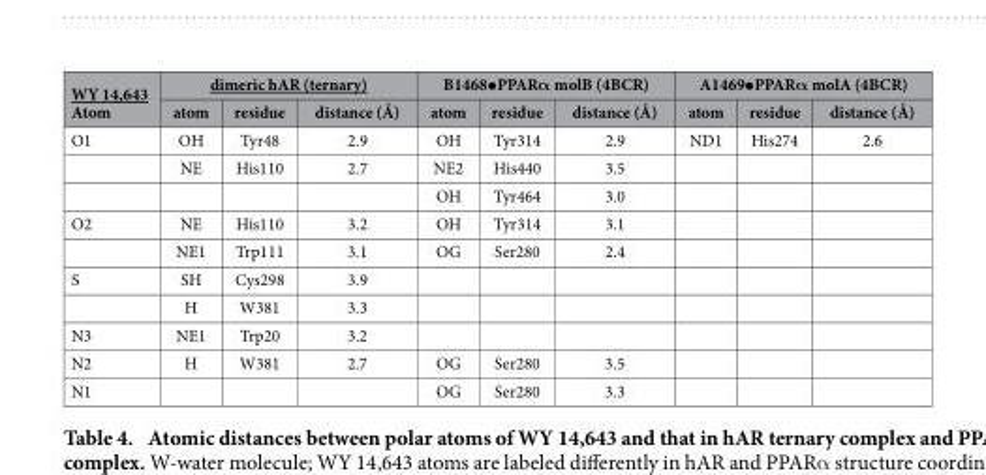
<table><thead><tr><td rowspan="2">WY 14,643 Atom</td><td colspan="3">dimeric hAR (ternary)</td><td colspan="3">B1468•PPARα molB (4BCR)</td><td colspan="3">A1469•PPARα molA (4BCR)</td></tr><tr><td>atom</td><td>residue</td><td>distance (Å)</td><td>atom</td><td>residue</td><td>distance (Å)</td><td>atom</td><td>residue</td><td>distance (Å)</td></tr></thead><tbody><tr><td rowspan="3">O1</td><td>OH</td><td>Tyr48</td><td>2.9</td><td>OH</td><td>Tyr314</td><td>2.9</td><td>ND1</td><td>His274</td><td>2.6</td></tr><tr><td>NE</td><td>His110</td><td>2.7</td><td>NE2</td><td>His440</td><td>3.5</td><td></td><td></td><td></td></tr><tr><td></td><td></td><td></td><td>OH</td><td>Tyr464</td><td>3.0</td><td></td><td></td><td></td></tr><tr><td rowspan="2">O2</td><td>NE</td><td>His110</td><td>3.2</td><td>OH</td><td>Tyr314</td><td>3.1</td><td></td><td></td><td></td></tr><tr><td>NE1</td><td>Trp111</td><td>3.1</td><td>OG</td><td>Ser280</td><td>2.4</td><td></td><td></td><td></td></tr><tr><td rowspan="2">S</td><td>SH</td><td>Cys298</td><td>3.9</td><td></td><td></td><td></td><td></td><td></td><td></td></tr><tr><td>H</td><td>W381</td><td>3.3</td><td></td><td></td><td></td><td></td><td></td><td></td></tr><tr><td>N3</td><td>NE1</td><td>Trp20</td><td>3.2</td><td></td><td></td><td></td><td></td><td></td><td></td></tr><tr><td>N2</td><td>H</td><td>W381</td><td>2.7</td><td>OG</td><td>Ser280</td><td>3.5</td><td></td><td></td><td></td></tr><tr><td>N1</td><td></td><td></td><td></td><td>OG</td><td>Ser280</td><td>3.3</td><td></td><td></td><td></td></tr></tbody></table>